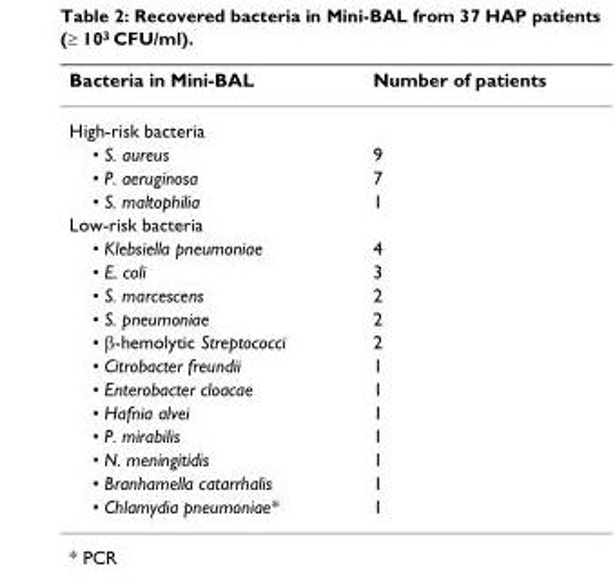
<table><thead><tr><td>Bacteria in Mini-BAL</td><td>Number of patients</td></tr></thead><tbody><tr><td colspan="2">High-risk bacteria</td></tr><tr><td>• S. aureus</td><td>9</td></tr><tr><td>• P. aeruginosa</td><td>7</td></tr><tr><td>• S. maltophilia</td><td>1</td></tr><tr><td colspan="2">Low-risk bacteria</td></tr><tr><td>• Klebsiella pneumoniae</td><td>4</td></tr><tr><td>• E. coli</td><td>3</td></tr><tr><td>• S. marcescens</td><td>2</td></tr><tr><td>• S. pneumoniae</td><td>2</td></tr><tr><td>• β-hemolytic Streptococci</td><td>2</td></tr><tr><td>• Citrobacter freundii</td><td>1</td></tr><tr><td>• Enterobacter cloacae</td><td>1</td></tr><tr><td>• Hafnia alvei</td><td>1</td></tr><tr><td>• P. mirabilis</td><td>1</td></tr><tr><td>• N. meningitidis</td><td>1</td></tr><tr><td>• Branhamella catarrhalis</td><td>1</td></tr><tr><td>• Chlamydia pneumoniae*</td><td>1</td></tr></tbody></table>